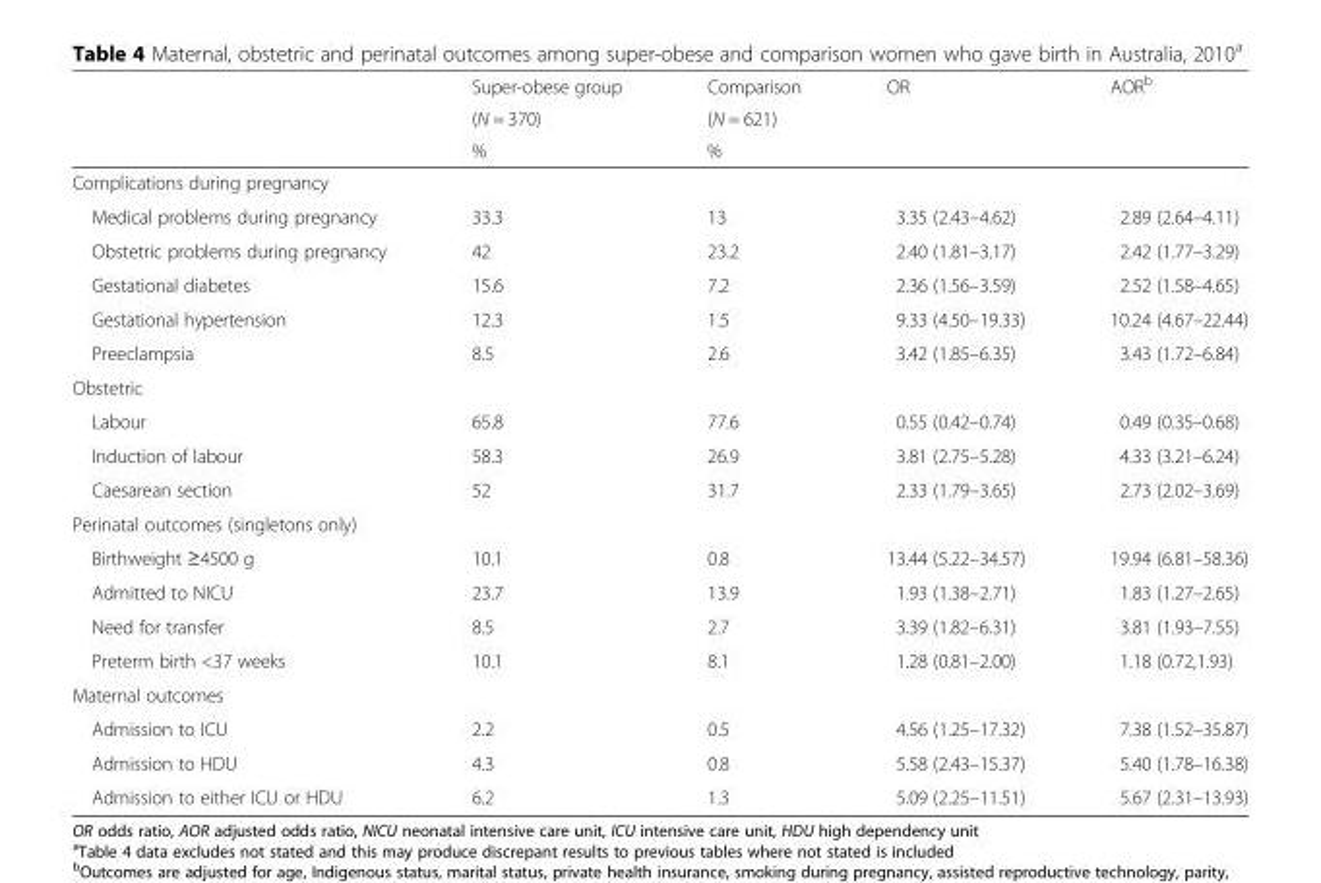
<table><thead><tr><td rowspan="3"></td><td rowspan="3">Super-obese group (N = 370) %</td><td rowspan="3">Comparison (N = 621) %</td><td rowspan="3">OR</td><td rowspan="3">AOR<sup>b</sup></td></tr><tr></tr><tr></tr></thead><tbody><tr><td colspan="5">Complications during pregnancy</td></tr><tr><td>Medical problems during pregnancy</td><td>33.3</td><td>13</td><td>3.35 (2.43–4.62)</td><td>2.89 (2.64–4.11)</td></tr><tr><td>Obstetric problems during pregnancy</td><td>42</td><td>23.2</td><td>2.40 (1.81–3.17)</td><td>2.42 (1.77–3.29)</td></tr><tr><td>Gestational diabetes</td><td>15.6</td><td>7.2</td><td>2.36 (1.56–3.59)</td><td>2.52 (1.58–4.65)</td></tr><tr><td>Gestational hypertension</td><td>12.3</td><td>1.5</td><td>9.33 (4.50–19.33)</td><td>10.24 (4.67–22.44)</td></tr><tr><td>Preeclampsia</td><td>8.5</td><td>2.6</td><td>3.42 (1.85–6.35)</td><td>3.43 (1.72–6.84)</td></tr><tr><td colspan="5">Obstetric</td></tr><tr><td>Labour</td><td>65.8</td><td>77.6</td><td>0.55 (0.42–0.74)</td><td>0.49 (0.35–0.68)</td></tr><tr><td>Induction of labour</td><td>58.3</td><td>26.9</td><td>3.81 (2.75–5.28)</td><td>4.33 (3.21–6.24)</td></tr><tr><td>Caesarean section</td><td>52</td><td>31.7</td><td>2.33 (1.79–3.65)</td><td>2.73 (2.02–3.69)</td></tr><tr><td colspan="5">Perinatal outcomes (singletons only)</td></tr><tr><td>Birthweight ≥4500 g</td><td>10.1</td><td>0.8</td><td>13.44 (5.22–34.57)</td><td>19.94 (6.81–58.36)</td></tr><tr><td>Admitted to NICU</td><td>23.7</td><td>13.9</td><td>1.93 (1.38–2.71)</td><td>1.83 (1.27–2.65)</td></tr><tr><td>Need for transfer</td><td>8.5</td><td>2.7</td><td>3.39 (1.82–6.31)</td><td>3.81 (1.93–7.55)</td></tr><tr><td>Preterm birth &lt;37 weeks</td><td>10.1</td><td>8.1</td><td>1.28 (0.81–2.00)</td><td>1.18 (0.72,1.93)</td></tr><tr><td colspan="5">Maternal outcomes</td></tr><tr><td>Admission to ICU</td><td>2.2</td><td>0.5</td><td>4.56 (1.25–17.32)</td><td>7.38 (1.52–35.87)</td></tr><tr><td>Admission to HDU</td><td>4.3</td><td>0.8</td><td>5.58 (2.43–15.37)</td><td>5.40 (1.78–16.38)</td></tr><tr><td>Admission to either ICU or HDU</td><td>6.2</td><td>1.3</td><td>5.09 (2.25–11.51)</td><td>5.67 (2.31–13.93)</td></tr></tbody></table>